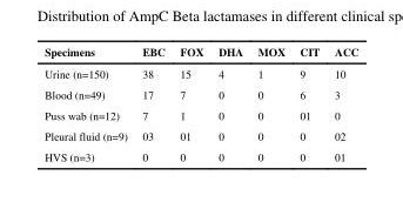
<table><thead><tr><td>Specimens</td><td>EBC</td><td>FOX</td><td>DHA</td><td>MOX</td><td>CIT</td><td>ACC</td></tr></thead><tbody><tr><td>Urine (n=150)</td><td>38</td><td>15</td><td>4</td><td>1</td><td>9</td><td>10</td></tr><tr><td>Blood (n=49)</td><td>17</td><td>7</td><td>0</td><td>0</td><td>6</td><td>3</td></tr><tr><td>Puss wab (n=12)</td><td>7</td><td>1</td><td>0</td><td>0</td><td>01</td><td>0</td></tr><tr><td>Pleural fluid (n=9)</td><td>03</td><td>01</td><td>0</td><td>0</td><td>0</td><td>02</td></tr><tr><td>HVS (n=3)</td><td>0</td><td>0</td><td>0</td><td>0</td><td>0</td><td>01</td></tr></tbody></table>